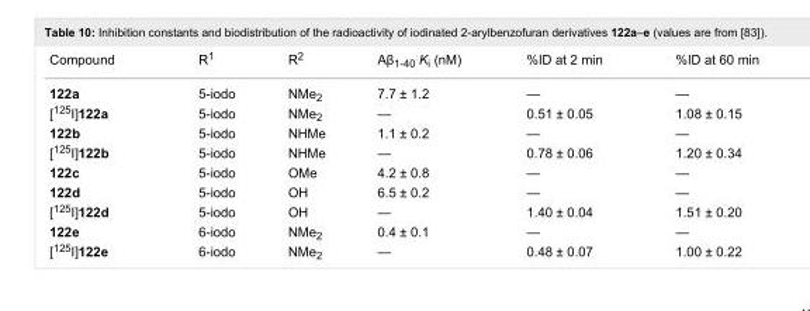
<table><tbody><tr><td>Compound</td><td>R<sup>1</sup></td><td>R<sup>2</sup></td><td>Aβ<sub>1-40</sub> K<sub>i</sub> (nM)</td><td>%ID at 2 min</td><td>%ID at 60 min</td></tr><tr><td>122a</td><td>5-iodo</td><td>NMe<sub>2</sub></td><td>7.7 ± 1.2</td><td>—</td><td>—</td></tr><tr><td>[<sup>125</sup>I]122a</td><td>5-iodo</td><td>NMe<sub>2</sub></td><td>—</td><td>0.51 ± 0.05</td><td>1.08 ± 0.15</td></tr><tr><td>122b</td><td>5-iodo</td><td>NHMe</td><td>1.1 ± 0.2</td><td>—</td><td>—</td></tr><tr><td>[<sup>125</sup>I]122b</td><td>5-iodo</td><td>NHMe</td><td>—</td><td>0.78 ± 0.06</td><td>1.20 ± 0.34</td></tr><tr><td>122c</td><td>5-iodo</td><td>OMe</td><td>4.2 ± 0.8</td><td>—</td><td>—</td></tr><tr><td>122d</td><td>5-iodo</td><td>OH</td><td>6.5 ± 0.2</td><td>—</td><td>—</td></tr><tr><td>[<sup>125</sup>I]122d</td><td>5-iodo</td><td>OH</td><td>—</td><td>1.40 ± 0.04</td><td>1.51 ± 0.20</td></tr><tr><td>122e</td><td>6-iodo</td><td>NMe<sub>2</sub></td><td>0.4 ± 0.1</td><td>—</td><td>—</td></tr><tr><td>[<sup>125</sup>I]122e</td><td>6-iodo</td><td>NMe<sub>2</sub></td><td>—</td><td>0.48 ± 0.07</td><td>1.00 ± 0.22</td></tr></tbody></table>